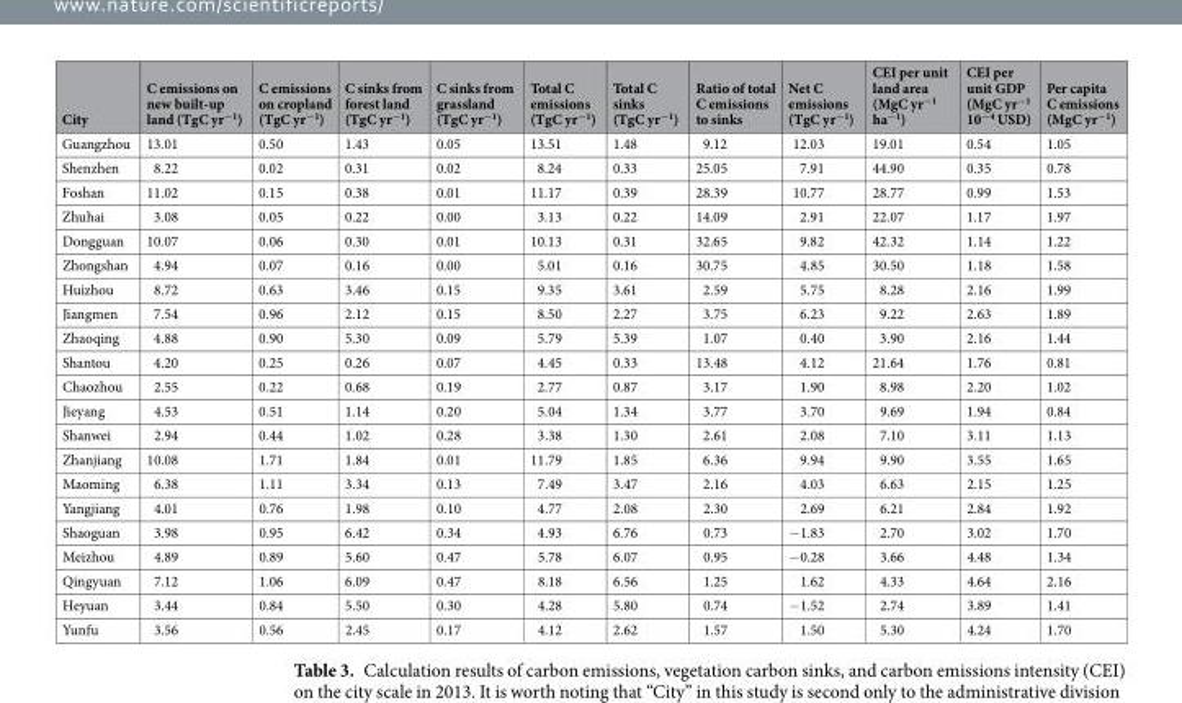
<table><thead><tr><td>City</td><td>C emissions on new built-up land (TgC yr<sup>−1</sup>)</td><td>C emissions on cropland (TgC yr<sup>−1</sup>)</td><td>C sinks from forest land (TgC yr<sup>−1</sup>)</td><td>C sinks from grassland (TgC yr<sup>−1</sup>)</td><td>Total C emissions (TgC yr<sup>−1</sup>)</td><td>Total C sinks (TgC yr<sup>−1</sup>)</td><td>Ratio of total C emissions to sinks</td><td>Net C emissions (TgC yr<sup>−1</sup>)</td><td>CEI per unit land area (MgC yr<sup>−1</sup> ha<sup>−1</sup>)</td><td>CEI per unit GDP (MgC yr<sup>−1</sup> 10<sup>−4</sup> USD)</td><td>Per capita C emissions (MgC yr<sup>−1</sup>)</td></tr></thead><tbody><tr><td>Guangzhou</td><td>13.01</td><td>0.50</td><td>1.43</td><td>0.05</td><td>13.51</td><td>1.48</td><td>9.12</td><td>12.03</td><td>19.01</td><td>0.54</td><td>1.05</td></tr><tr><td>Shenzhen</td><td>8.22</td><td>0.02</td><td>0.31</td><td>0.02</td><td>8.24</td><td>0.33</td><td>25.05</td><td>7.91</td><td>44.90</td><td>0.35</td><td>0.78</td></tr><tr><td>Foshan</td><td>11.02</td><td>0.15</td><td>0.38</td><td>0.01</td><td>11.17</td><td>0.39</td><td>28.39</td><td>10.77</td><td>28.77</td><td>0.99</td><td>1.53</td></tr><tr><td>Zhuhai</td><td>3.08</td><td>0.05</td><td>0.22</td><td>0.00</td><td>3.13</td><td>0.22</td><td>14.09</td><td>2.91</td><td>22.07</td><td>1.17</td><td>1.97</td></tr><tr><td>Dongguan</td><td>10.07</td><td>0.06</td><td>0.30</td><td>0.01</td><td>10.13</td><td>0.31</td><td>32.65</td><td>9.82</td><td>42.32</td><td>1.14</td><td>1.22</td></tr><tr><td>Zhongshan</td><td>4.94</td><td>0.07</td><td>0.16</td><td>0.00</td><td>5.01</td><td>0.16</td><td>30.75</td><td>4.85</td><td>30.50</td><td>1.18</td><td>1.58</td></tr><tr><td>Huizhou</td><td>8.72</td><td>0.63</td><td>3.46</td><td>0.15</td><td>9.35</td><td>3.61</td><td>2.59</td><td>5.75</td><td>8.28</td><td>2.16</td><td>1.99</td></tr><tr><td>Jiangmen</td><td>7.54</td><td>0.96</td><td>2.12</td><td>0.15</td><td>8.50</td><td>2.27</td><td>3.75</td><td>6.23</td><td>9.22</td><td>2.63</td><td>1.89</td></tr><tr><td>Zhaoqing</td><td>4.88</td><td>0.90</td><td>5.30</td><td>0.09</td><td>5.79</td><td>5.39</td><td>1.07</td><td>0.40</td><td>3.90</td><td>2.16</td><td>1.44</td></tr><tr><td>Shantou</td><td>4.20</td><td>0.25</td><td>0.26</td><td>0.07</td><td>4.45</td><td>0.33</td><td>13.48</td><td>4.12</td><td>21.64</td><td>1.76</td><td>0.81</td></tr><tr><td>Chaozhou</td><td>2.55</td><td>0.22</td><td>0.68</td><td>0.19</td><td>2.77</td><td>0.87</td><td>3.17</td><td>1.90</td><td>8.98</td><td>2.20</td><td>1.02</td></tr><tr><td>Jieyang</td><td>4.53</td><td>0.51</td><td>1.14</td><td>0.20</td><td>5.04</td><td>1.34</td><td>3.77</td><td>3.70</td><td>9.69</td><td>1.94</td><td>0.84</td></tr><tr><td>Shanwei</td><td>2.94</td><td>0.44</td><td>1.02</td><td>0.28</td><td>3.38</td><td>1.30</td><td>2.61</td><td>2.08</td><td>7.10</td><td>3.11</td><td>1.13</td></tr><tr><td>Zhanjiang</td><td>10.08</td><td>1.71</td><td>1.84</td><td>0.01</td><td>11.79</td><td>1.85</td><td>6.36</td><td>9.94</td><td>9.90</td><td>3.55</td><td>1.65</td></tr><tr><td>Maoming</td><td>6.38</td><td>1.11</td><td>3.34</td><td>0.13</td><td>7.49</td><td>3.47</td><td>2.16</td><td>4.03</td><td>6.63</td><td>2.15</td><td>1.25</td></tr><tr><td>Yangjiang</td><td>4.01</td><td>0.76</td><td>1.98</td><td>0.10</td><td>4.77</td><td>2.08</td><td>2.30</td><td>2.69</td><td>6.21</td><td>2.84</td><td>1.92</td></tr><tr><td>Shaoguan</td><td>3.98</td><td>0.95</td><td>6.42</td><td>0.34</td><td>4.93</td><td>6.76</td><td>0.73</td><td>−1.83</td><td>2.70</td><td>3.02</td><td>1.70</td></tr><tr><td>Meizhou</td><td>4.89</td><td>0.89</td><td>5.60</td><td>0.47</td><td>5.78</td><td>6.07</td><td>0.95</td><td>−0.28</td><td>3.66</td><td>4.48</td><td>1.34</td></tr><tr><td>Qingyuan</td><td>7.12</td><td>1.06</td><td>6.09</td><td>0.47</td><td>8.18</td><td>6.56</td><td>1.25</td><td>1.62</td><td>4.33</td><td>4.64</td><td>2.16</td></tr><tr><td>Heyuan</td><td>3.44</td><td>0.84</td><td>5.50</td><td>0.30</td><td>4.28</td><td>5.80</td><td>0.74</td><td>−1.52</td><td>2.74</td><td>3.89</td><td>1.41</td></tr><tr><td>Yunfu</td><td>3.56</td><td>0.56</td><td>2.45</td><td>0.17</td><td>4.12</td><td>2.62</td><td>1.57</td><td>1.50</td><td>5.30</td><td>4.24</td><td>1.70</td></tr></tbody></table>